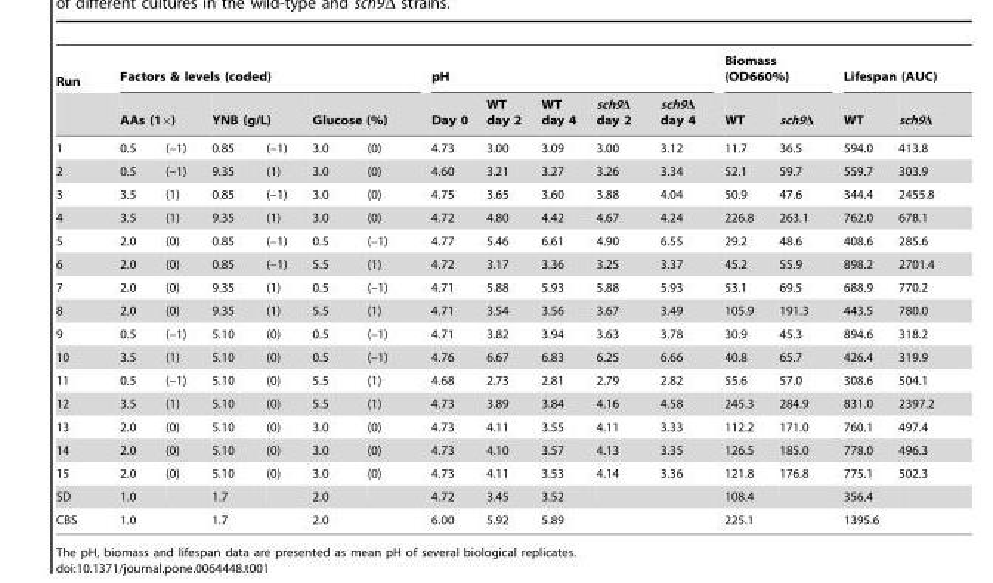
<table><thead><tr><td rowspan="3">Run 1</td><td colspan="6">Factors &amp; levels (coded)</td><td colspan="5">pH</td><td colspan="2">Biomass (OD660%)</td><td colspan="2">Lifespan (AUC)</td></tr><tr><td colspan="2">AAs (1×)</td><td colspan="2">YNB (g/L)</td><td colspan="2">Glucose (%)</td><td rowspan="2">Day 0 4.73</td><td rowspan="2">WT day 2 3.00</td><td rowspan="2">WT day 4 3.09</td><td rowspan="2">sch9Δ day 2 3.00</td><td rowspan="2">sch9Δ day 4 3.12</td><td rowspan="2">WT 11.7</td><td rowspan="2">sch9Δ 36.5</td><td rowspan="2">WT 594.0</td><td rowspan="2">sch9Δ 413.8</td></tr><tr><td>0.5</td><td>(–1)</td><td>0.85</td><td>(–1)</td><td>3.0</td><td>(0)</td></tr></thead><tbody><tr><td>2</td><td>0.5</td><td>(–1)</td><td>9.35</td><td>(1)</td><td>3.0</td><td>(0)</td><td>4.60</td><td>3.21</td><td>3.27</td><td>3.26</td><td>3.34</td><td>52.1</td><td>59.7</td><td>559.7</td><td>303.9</td></tr><tr><td>3</td><td>3.5</td><td>(1)</td><td>0.85</td><td>(–1)</td><td>3.0</td><td>(0)</td><td>4.75</td><td>3.65</td><td>3.60</td><td>3.88</td><td>4.04</td><td>50.9</td><td>47.6</td><td>344.4</td><td>2455.8</td></tr><tr><td>4</td><td>3.5</td><td>(1)</td><td>9.35</td><td>(1)</td><td>3.0</td><td>(0)</td><td>4.72</td><td>4.80</td><td>4.42</td><td>4.67</td><td>4.24</td><td>226.8</td><td>263.1</td><td>762.0</td><td>678.1</td></tr><tr><td>5</td><td>2.0</td><td>(0)</td><td>0.85</td><td>(–1)</td><td>0.5</td><td>(–1)</td><td>4.77</td><td>5.46</td><td>6.61</td><td>4.90</td><td>6.55</td><td>29.2</td><td>48.6</td><td>408.6</td><td>285.6</td></tr><tr><td>6</td><td>2.0</td><td>(0)</td><td>0.85</td><td>(–1)</td><td>5.5</td><td>(1)</td><td>4.72</td><td>3.17</td><td>3.36</td><td>3.25</td><td>3.37</td><td>45.2</td><td>55.9</td><td>898.2</td><td>2701.4</td></tr><tr><td>7</td><td>2.0</td><td>(0)</td><td>9.35</td><td>(1)</td><td>0.5</td><td>(–1)</td><td>4.71</td><td>5.88</td><td>5.93</td><td>5.88</td><td>5.93</td><td>53.1</td><td>69.5</td><td>688.9</td><td>770.2</td></tr><tr><td>8</td><td>2.0</td><td>(0)</td><td>9.35</td><td>(1)</td><td>5.5</td><td>(1)</td><td>4.71</td><td>3.54</td><td>3.56</td><td>3.67</td><td>3.49</td><td>105.9</td><td>191.3</td><td>443.5</td><td>780.0</td></tr><tr><td>9</td><td>0.5</td><td>(–1)</td><td>5.10</td><td>(0)</td><td>0.5</td><td>(–1)</td><td>4.71</td><td>3.82</td><td>3.94</td><td>3.63</td><td>3.78</td><td>30.9</td><td>45.3</td><td>894.6</td><td>318.2</td></tr><tr><td>10</td><td>3.5</td><td>(1)</td><td>5.10</td><td>(0)</td><td>0.5</td><td>(–1)</td><td>4.76</td><td>6.67</td><td>6.83</td><td>6.25</td><td>6.66</td><td>40.8</td><td>65.7</td><td>426.4</td><td>319.9</td></tr><tr><td>11</td><td>0.5</td><td>(–1)</td><td>5.10</td><td>(0)</td><td>5.5</td><td>(1)</td><td>4.68</td><td>2.73</td><td>2.81</td><td>2.79</td><td>2.82</td><td>55.6</td><td>57.0</td><td>308.6</td><td>504.1</td></tr><tr><td>12</td><td>3.5</td><td>(1)</td><td>5.10</td><td>(0)</td><td>5.5</td><td>(1)</td><td>4.73</td><td>3.89</td><td>3.84</td><td>4.16</td><td>4.58</td><td>245.3</td><td>284.9</td><td>831.0</td><td>2397.2</td></tr><tr><td>13</td><td>2.0</td><td>(0)</td><td>5.10</td><td>(0)</td><td>3.0</td><td>(0)</td><td>4.73</td><td>4.11</td><td>3.55</td><td>4.11</td><td>3.33</td><td>112.2</td><td>171.0</td><td>760.1</td><td>497.4</td></tr><tr><td>14</td><td>2.0</td><td>(0)</td><td>5.10</td><td>(0)</td><td>3.0</td><td>(0)</td><td>4.73</td><td>4.10</td><td>3.57</td><td>4.13</td><td>3.35</td><td>126.5</td><td>185.0</td><td>778.0</td><td>496.3</td></tr><tr><td>15</td><td>2.0</td><td>(0)</td><td>5.10</td><td>(0)</td><td>3.0</td><td>(0)</td><td>4.73</td><td>4.11</td><td>3.53</td><td>4.14</td><td>3.36</td><td>121.8</td><td>176.8</td><td>775.1</td><td>502.3</td></tr><tr><td>SD</td><td>1.0</td><td></td><td>1.7</td><td></td><td>2.0</td><td></td><td>4.72</td><td>3.45</td><td>3.52</td><td></td><td></td><td>108.4</td><td></td><td>356.4</td><td></td></tr><tr><td>CBS</td><td>1.0</td><td></td><td>1.7</td><td></td><td>2.0</td><td></td><td>6.00</td><td>5.92</td><td>5.89</td><td></td><td></td><td>225.1</td><td></td><td>1395.6</td><td></td></tr></tbody></table>